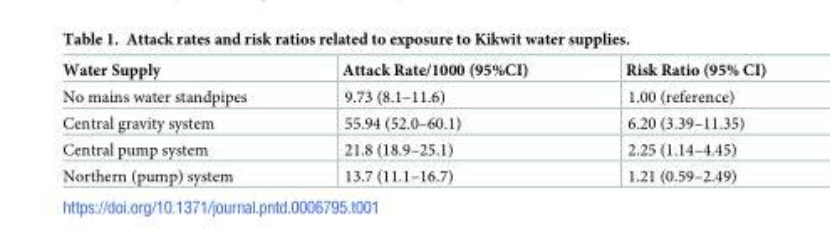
<table><thead><tr><td>Water Supply</td><td>Attack Rate/1000 (95%CI)</td><td>Risk Ratio (95% CI)</td></tr></thead><tbody><tr><td>No mains water standpipes</td><td>9.73 (8.1–11.6)</td><td>1.00 (reference)</td></tr><tr><td>Central gravity system</td><td>55.94 (52.0–60.1)</td><td>6.20 (3.39–11.35)</td></tr><tr><td>Central pump system</td><td>21.8 (18.9–25.1)</td><td>2.25 (1.14–4.45)</td></tr><tr><td>Northern (pump) system</td><td>13.7 (11.1–16.7)</td><td>1.21 (0.59–2.49)</td></tr></tbody></table>